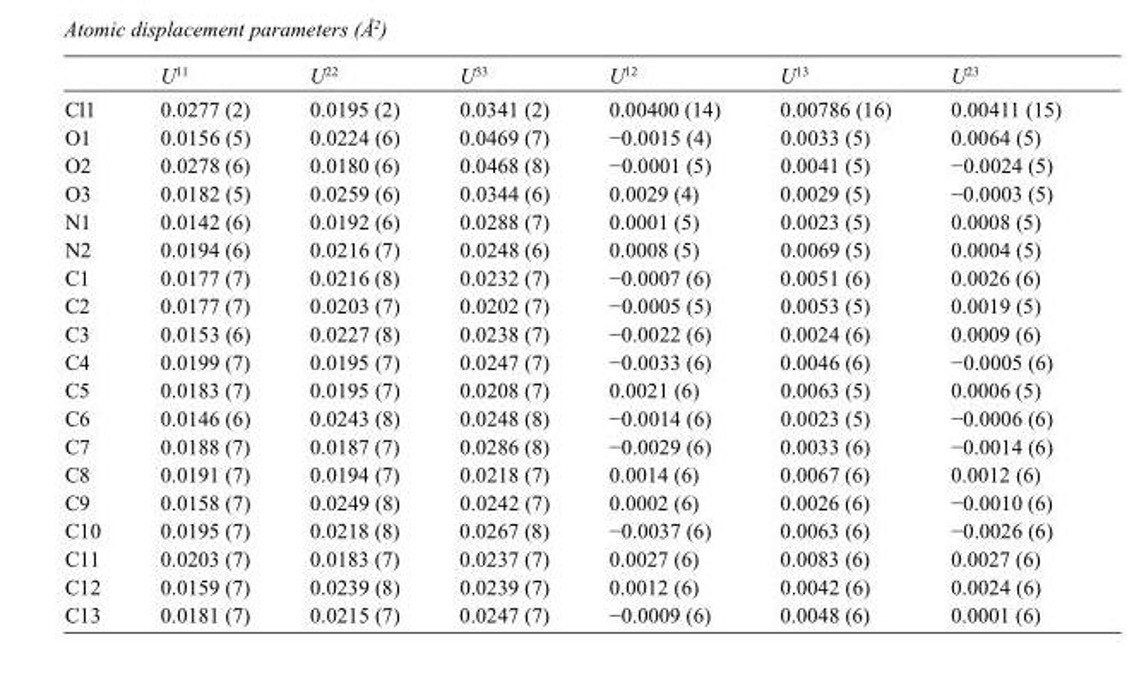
<table><thead><tr><td></td><td>U<sup>11</sup></td><td>U<sup>22</sup></td><td>U<sup>33</sup></td><td>U<sup>12</sup></td><td>U<sup>13</sup></td><td>U<sup>23</sup></td></tr></thead><tbody><tr><td>Cl1</td><td>0.0277 (2)</td><td>0.0195 (2)</td><td>0.0341 (2)</td><td>0.00400 (14)</td><td>0.00786 (16)</td><td>0.00411 (15)</td></tr><tr><td>O1</td><td>0.0156 (5)</td><td>0.0224 (6)</td><td>0.0469 (7)</td><td>−0.0015 (4)</td><td>0.0033 (5)</td><td>0.0064 (5)</td></tr><tr><td>O2</td><td>0.0278 (6)</td><td>0.0180 (6)</td><td>0.0468 (8)</td><td>−0.0001 (5)</td><td>0.0041 (5)</td><td>−0.0024 (5)</td></tr><tr><td>O3</td><td>0.0182 (5)</td><td>0.0259 (6)</td><td>0.0344 (6)</td><td>0.0029 (4)</td><td>0.0029 (5)</td><td>−0.0003 (5)</td></tr><tr><td>N1</td><td>0.0142 (6)</td><td>0.0192 (6)</td><td>0.0288 (7)</td><td>0.0001 (5)</td><td>0.0023 (5)</td><td>0.0008 (5)</td></tr><tr><td>N2</td><td>0.0194 (6)</td><td>0.0216 (7)</td><td>0.0248 (6)</td><td>0.0008 (5)</td><td>0.0069 (5)</td><td>0.0004 (5)</td></tr><tr><td>C1</td><td>0.0177 (7)</td><td>0.0216 (8)</td><td>0.0232 (7)</td><td>−0.0007 (6)</td><td>0.0051 (6)</td><td>0.0026 (6)</td></tr><tr><td>C2</td><td>0.0177 (7)</td><td>0.0203 (7)</td><td>0.0202 (7)</td><td>−0.0005 (5)</td><td>0.0053 (5)</td><td>0.0019 (5)</td></tr><tr><td>C3</td><td>0.0153 (6)</td><td>0.0227 (8)</td><td>0.0238 (7)</td><td>−0.0022 (6)</td><td>0.0024 (6)</td><td>0.0009 (6)</td></tr><tr><td>C4</td><td>0.0199 (7)</td><td>0.0195 (7)</td><td>0.0247 (7)</td><td>−0.0033 (6)</td><td>0.0046 (6)</td><td>−0.0005 (6)</td></tr><tr><td>C5</td><td>0.0183 (7)</td><td>0.0195 (7)</td><td>0.0208 (7)</td><td>0.0021 (6)</td><td>0.0063 (5)</td><td>0.0006 (5)</td></tr><tr><td>C6</td><td>0.0146 (6)</td><td>0.0243 (8)</td><td>0.0248 (8)</td><td>−0.0014 (6)</td><td>0.0023 (5)</td><td>−0.0006 (6)</td></tr><tr><td>C7</td><td>0.0188 (7)</td><td>0.0187 (7)</td><td>0.0286 (8)</td><td>−0.0029 (6)</td><td>0.0033 (6)</td><td>−0.0014 (6)</td></tr><tr><td>C8</td><td>0.0191 (7)</td><td>0.0194 (7)</td><td>0.0218 (7)</td><td>0.0014 (6)</td><td>0.0067 (6)</td><td>0.0012 (6)</td></tr><tr><td>C9</td><td>0.0158 (7)</td><td>0.0249 (8)</td><td>0.0242 (7)</td><td>0.0002 (6)</td><td>0.0026 (6)</td><td>−0.0010 (6)</td></tr><tr><td>C10</td><td>0.0195 (7)</td><td>0.0218 (8)</td><td>0.0267 (8)</td><td>−0.0037 (6)</td><td>0.0063 (6)</td><td>−0.0026 (6)</td></tr><tr><td>C11</td><td>0.0203 (7)</td><td>0.0183 (7)</td><td>0.0237 (7)</td><td>0.0027 (6)</td><td>0.0083 (6)</td><td>0.0027 (6)</td></tr><tr><td>C12</td><td>0.0159 (7)</td><td>0.0239 (8)</td><td>0.0239 (7)</td><td>0.0012 (6)</td><td>0.0042 (6)</td><td>0.0024 (6)</td></tr><tr><td>C13</td><td>0.0181 (7)</td><td>0.0215 (7)</td><td>0.0247 (7)</td><td>−0.0009 (6)</td><td>0.0048 (6)</td><td>0.0001 (6)</td></tr></tbody></table>